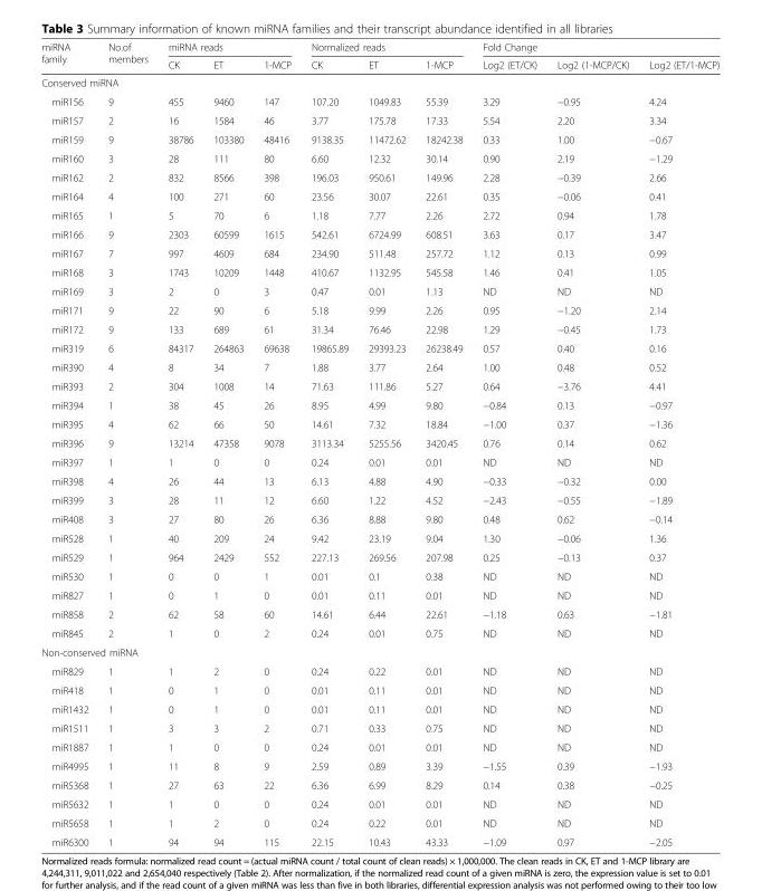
<table><thead><tr><td rowspan="2">miRNA family</td><td rowspan="2">No.of members</td><td colspan="3">miRNA reads</td><td colspan="3">Normalized reads</td><td colspan="3">Fold Change</td></tr><tr><td>CK</td><td>ET</td><td>1-MCP</td><td>CK</td><td>ET</td><td>1-MCP</td><td>Log2 (ET/CK)</td><td>Log2 (1-MCP/CK)</td><td>Log2 (ET/1-MCP)</td></tr></thead><tbody><tr><td colspan="11">Conserved miRNA</td></tr><tr><td>miR156</td><td>9</td><td>455</td><td>9460</td><td>147</td><td>107.20</td><td>1049.83</td><td>55.39</td><td>3.29</td><td>−0.95</td><td>4.24</td></tr><tr><td>miR157</td><td>2</td><td>16</td><td>1584</td><td>46</td><td>3.77</td><td>175.78</td><td>17.33</td><td>5.54</td><td>2.20</td><td>3.34</td></tr><tr><td>miR159</td><td>9</td><td>38786</td><td>103380</td><td>48416</td><td>9138.35</td><td>11472.62</td><td>18242.38</td><td>0.33</td><td>1.00</td><td>−0.67</td></tr><tr><td>miR160</td><td>3</td><td>28</td><td>111</td><td>80</td><td>6.60</td><td>12.32</td><td>30.14</td><td>0.90</td><td>2.19</td><td>−1.29</td></tr><tr><td>miR162</td><td>2</td><td>832</td><td>8566</td><td>398</td><td>196.03</td><td>950.61</td><td>149.96</td><td>2.28</td><td>−0.39</td><td>2.66</td></tr><tr><td>miR164</td><td>4</td><td>100</td><td>271</td><td>60</td><td>23.56</td><td>30.07</td><td>22.61</td><td>0.35</td><td>−0.06</td><td>0.41</td></tr><tr><td>miR165</td><td>1</td><td>5</td><td>70</td><td>6</td><td>1.18</td><td>7.77</td><td>2.26</td><td>2.72</td><td>0.94</td><td>1.78</td></tr><tr><td>miR166</td><td>9</td><td>2303</td><td>60599</td><td>1615</td><td>542.61</td><td>6724.99</td><td>608.51</td><td>3.63</td><td>0.17</td><td>3.47</td></tr><tr><td>miR167</td><td>7</td><td>997</td><td>4609</td><td>684</td><td>234.90</td><td>511.48</td><td>257.72</td><td>1.12</td><td>0.13</td><td>0.99</td></tr><tr><td>miR168</td><td>3</td><td>1743</td><td>10209</td><td>1448</td><td>410.67</td><td>1132.95</td><td>545.58</td><td>1.46</td><td>0.41</td><td>1.05</td></tr><tr><td>miR169</td><td>3</td><td>2</td><td>0</td><td>3</td><td>0.47</td><td>0.01</td><td>1.13</td><td>ND</td><td>ND</td><td>ND</td></tr><tr><td>miR171</td><td>9</td><td>22</td><td>90</td><td>6</td><td>5.18</td><td>9.99</td><td>2.26</td><td>0.95</td><td>−1.20</td><td>2.14</td></tr><tr><td>miR172</td><td>9</td><td>133</td><td>689</td><td>61</td><td>31.34</td><td>76.46</td><td>22.98</td><td>1.29</td><td>−0.45</td><td>1.73</td></tr><tr><td>miR319</td><td>6</td><td>84317</td><td>264863</td><td>69638</td><td>19865.89</td><td>29393.23</td><td>26238.49</td><td>0.57</td><td>0.40</td><td>0.16</td></tr><tr><td>miR390</td><td>4</td><td>8</td><td>34</td><td>7</td><td>1.88</td><td>3.77</td><td>2.64</td><td>1.00</td><td>0.48</td><td>0.52</td></tr><tr><td>miR393</td><td>2</td><td>304</td><td>1008</td><td>14</td><td>71.63</td><td>111.86</td><td>5.27</td><td>0.64</td><td>−3.76</td><td>4.41</td></tr><tr><td>miR394</td><td>1</td><td>38</td><td>45</td><td>26</td><td>8.95</td><td>4.99</td><td>9.80</td><td>−0.84</td><td>0.13</td><td>−0.97</td></tr><tr><td>miR395</td><td>4</td><td>62</td><td>66</td><td>50</td><td>14.61</td><td>7.32</td><td>18.84</td><td>−1.00</td><td>0.37</td><td>−1.36</td></tr><tr><td>miR396</td><td>9</td><td>13214</td><td>47358</td><td>9078</td><td>3113.34</td><td>5255.56</td><td>3420.45</td><td>0.76</td><td>0.14</td><td>0.62</td></tr><tr><td>miR397</td><td>1</td><td>1</td><td>0</td><td>0</td><td>0.24</td><td>0.01</td><td>0.01</td><td>ND</td><td>ND</td><td>ND</td></tr><tr><td>miR398</td><td>4</td><td>26</td><td>44</td><td>13</td><td>6.13</td><td>4.88</td><td>4.90</td><td>−0.33</td><td>−0.32</td><td>0.00</td></tr><tr><td>miR399</td><td>3</td><td>28</td><td>11</td><td>12</td><td>6.60</td><td>1.22</td><td>4.52</td><td>−2.43</td><td>−0.55</td><td>−1.89</td></tr><tr><td>miR408</td><td>3</td><td>27</td><td>80</td><td>26</td><td>6.36</td><td>8.88</td><td>9.80</td><td>0.48</td><td>0.62</td><td>−0.14</td></tr><tr><td>miR528</td><td>1</td><td>40</td><td>209</td><td>24</td><td>9.42</td><td>23.19</td><td>9.04</td><td>1.30</td><td>−0.06</td><td>1.36</td></tr><tr><td>miR529</td><td>1</td><td>964</td><td>2429</td><td>552</td><td>227.13</td><td>269.56</td><td>207.98</td><td>0.25</td><td>−0.13</td><td>0.37</td></tr><tr><td>miR530</td><td>1</td><td>0</td><td>0</td><td>1</td><td>0.01</td><td>0.1</td><td>0.38</td><td>ND</td><td>ND</td><td>ND</td></tr><tr><td>miR827</td><td>1</td><td>0</td><td>1</td><td>0</td><td>0.01</td><td>0.11</td><td>0.01</td><td>ND</td><td>ND</td><td>ND</td></tr><tr><td>miR858</td><td>2</td><td>62</td><td>58</td><td>60</td><td>14.61</td><td>6.44</td><td>22.61</td><td>−1.18</td><td>0.63</td><td>−1.81</td></tr><tr><td>miR845</td><td>2</td><td>1</td><td>0</td><td>2</td><td>0.24</td><td>0.01</td><td>0.75</td><td>ND</td><td>ND</td><td>ND</td></tr><tr><td colspan="11">Non-conserved miRNA</td></tr><tr><td>miR829</td><td>1</td><td>1</td><td>2</td><td>0</td><td>0.24</td><td>0.22</td><td>0.01</td><td>ND</td><td>ND</td><td>ND</td></tr><tr><td>miR418</td><td>1</td><td>0</td><td>1</td><td>0</td><td>0.01</td><td>0.11</td><td>0.01</td><td>ND</td><td>ND</td><td>ND</td></tr><tr><td>miR1432</td><td>1</td><td>0</td><td>1</td><td>0</td><td>0.01</td><td>0.11</td><td>0.01</td><td>ND</td><td>ND</td><td>ND</td></tr><tr><td>miR1511</td><td>1</td><td>3</td><td>3</td><td>2</td><td>0.71</td><td>0.33</td><td>0.75</td><td>ND</td><td>ND</td><td>ND</td></tr><tr><td>miR1887</td><td>1</td><td>1</td><td>0</td><td>0</td><td>0.24</td><td>0.01</td><td>0.01</td><td>ND</td><td>ND</td><td>ND</td></tr><tr><td>miR4995</td><td>1</td><td>11</td><td>8</td><td>9</td><td>2.59</td><td>0.89</td><td>3.39</td><td>−1.55</td><td>0.39</td><td>−1.93</td></tr><tr><td>miR5368</td><td>1</td><td>27</td><td>63</td><td>22</td><td>6.36</td><td>6.99</td><td>8.29</td><td>0.14</td><td>0.38</td><td>−0.25</td></tr><tr><td>miR5632</td><td>1</td><td>1</td><td>0</td><td>0</td><td>0.24</td><td>0.01</td><td>0.01</td><td>ND</td><td>ND</td><td>ND</td></tr><tr><td>miR5658</td><td>1</td><td>1</td><td>2</td><td>0</td><td>0.24</td><td>0.22</td><td>0.01</td><td>ND</td><td>ND</td><td>ND</td></tr><tr><td>miR6300</td><td>1</td><td>94</td><td>94</td><td>115</td><td>22.15</td><td>10.43</td><td>43.33</td><td>−1.09</td><td>0.97</td><td>−2.05</td></tr></tbody></table>